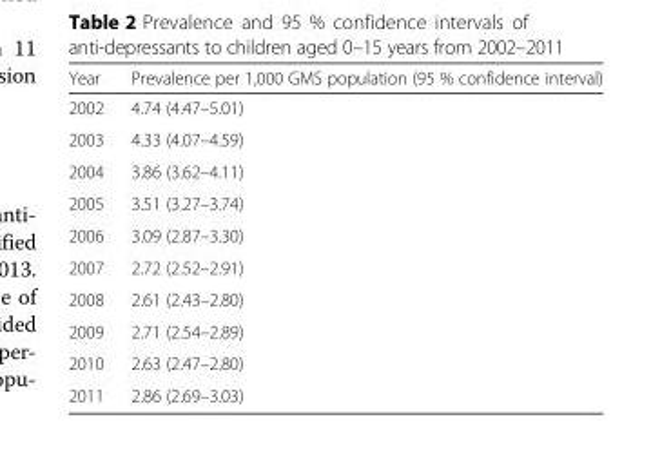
<table><thead><tr><td>Year</td><td>Prevalence per 1,000 GMS population (95 % confidence interval)</td></tr></thead><tbody><tr><td>2002</td><td>4.74 (4.47–5.01)</td></tr><tr><td>2003</td><td>4.33 (4.07–4.59)</td></tr><tr><td>2004</td><td>3.86 (3.62–4.11)</td></tr><tr><td>2005</td><td>3.51 (3.27–3.74)</td></tr><tr><td>2006</td><td>3.09 (2.87–3.30)</td></tr><tr><td>2007</td><td>2.72 (2.52–2.91)</td></tr><tr><td>2008</td><td>2.61 (2.43–2.80)</td></tr><tr><td>2009</td><td>2.71 (2.54–2.89)</td></tr><tr><td>2010</td><td>2.63 (2.47–2.80)</td></tr><tr><td>2011</td><td>2.86 (2.69–3.03)</td></tr></tbody></table>